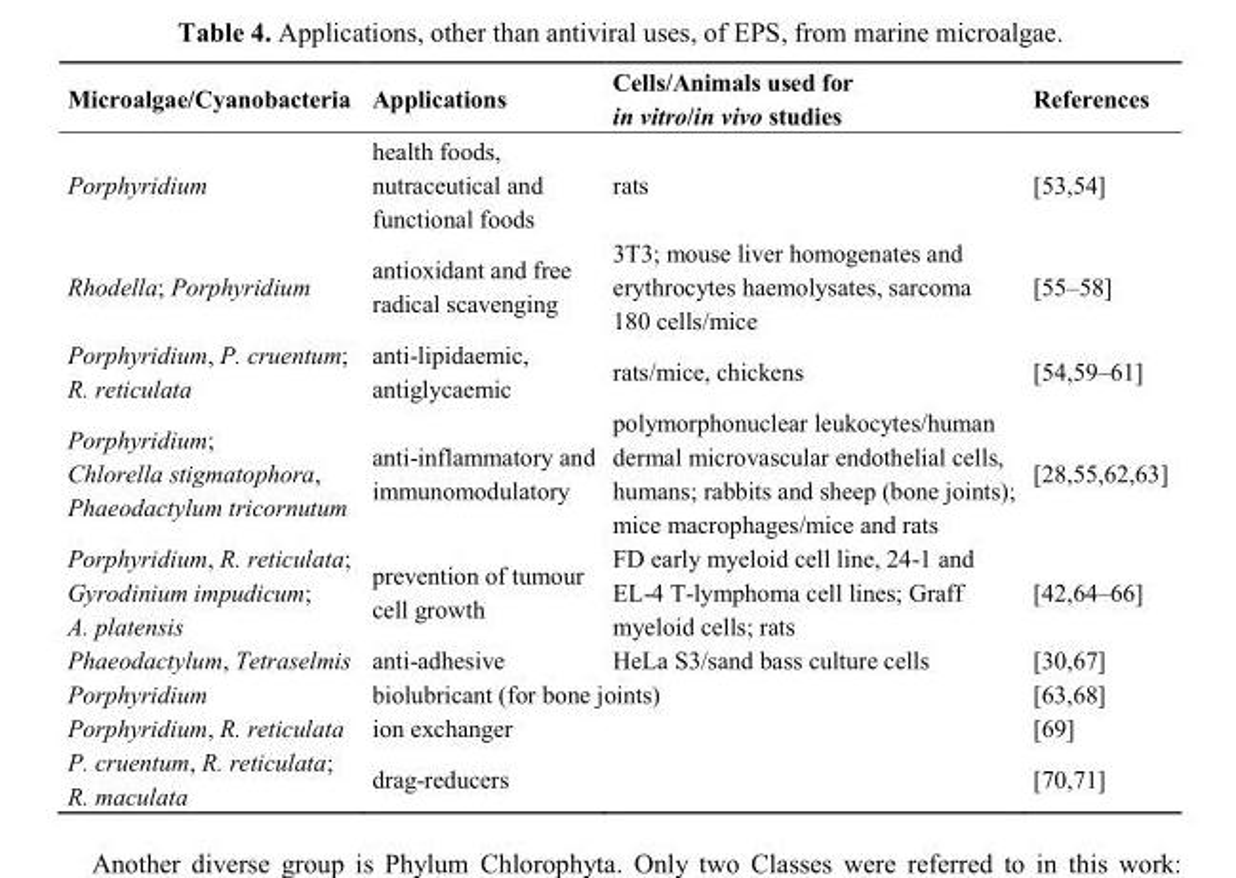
<table><thead><tr><td>Microalgae/Cyanobacteria</td><td>Applications</td><td>Cells/Animals used for in vitro/in vivo studies</td><td>References</td></tr></thead><tbody><tr><td>Porphyridium</td><td>health foods, nutraceutical and functional foods</td><td>rats</td><td>[53,54]</td></tr><tr><td>Rhodella; Porphyridium</td><td>antioxidant and free radical scavenging</td><td>3T3; mouse liver homogenates and erythrocytes haemolysates, sarcoma 180 cells/mice</td><td>[55–58]</td></tr><tr><td>Porphyridium, P. cruentum; R. reticulata</td><td>anti-lipidaemic, antiglycaemic</td><td>rats/mice, chickens</td><td>[54,59–61]</td></tr><tr><td>Porphyridium; Chlorella stigmatophora, Phaeodactylum tricornutum</td><td>anti-inflammatory and immunomodulatory</td><td>polymorphonuclear leukocytes/human dermal microvascular endothelial cells, humans; rabbits and sheep (bone joints); mice macrophages/mice and rats</td><td>[28,55,62,63]</td></tr><tr><td>Porphyridium, R. reticulata; Gyrodinium impudicum; A. platensis</td><td>prevention of tumour cell growth</td><td>FD early myeloid cell line, 24-1 and EL-4 T-lymphoma cell lines; Graff myeloid cells; rats</td><td>[42,64–66]</td></tr><tr><td>Phaeodactylum, Tetraselmis</td><td>anti-adhesive</td><td>HeLa S3/sand bass culture cells</td><td>[30,67]</td></tr><tr><td>Porphyridium</td><td colspan="2">biolubricant (for bone joints)</td><td>[63,68]</td></tr><tr><td>Porphyridium, R. reticulata</td><td>ion exchanger</td><td></td><td>[69]</td></tr><tr><td>P. cruentum, R. reticulata; R. maculata</td><td>drag-reducers</td><td></td><td>[70,71]</td></tr></tbody></table>